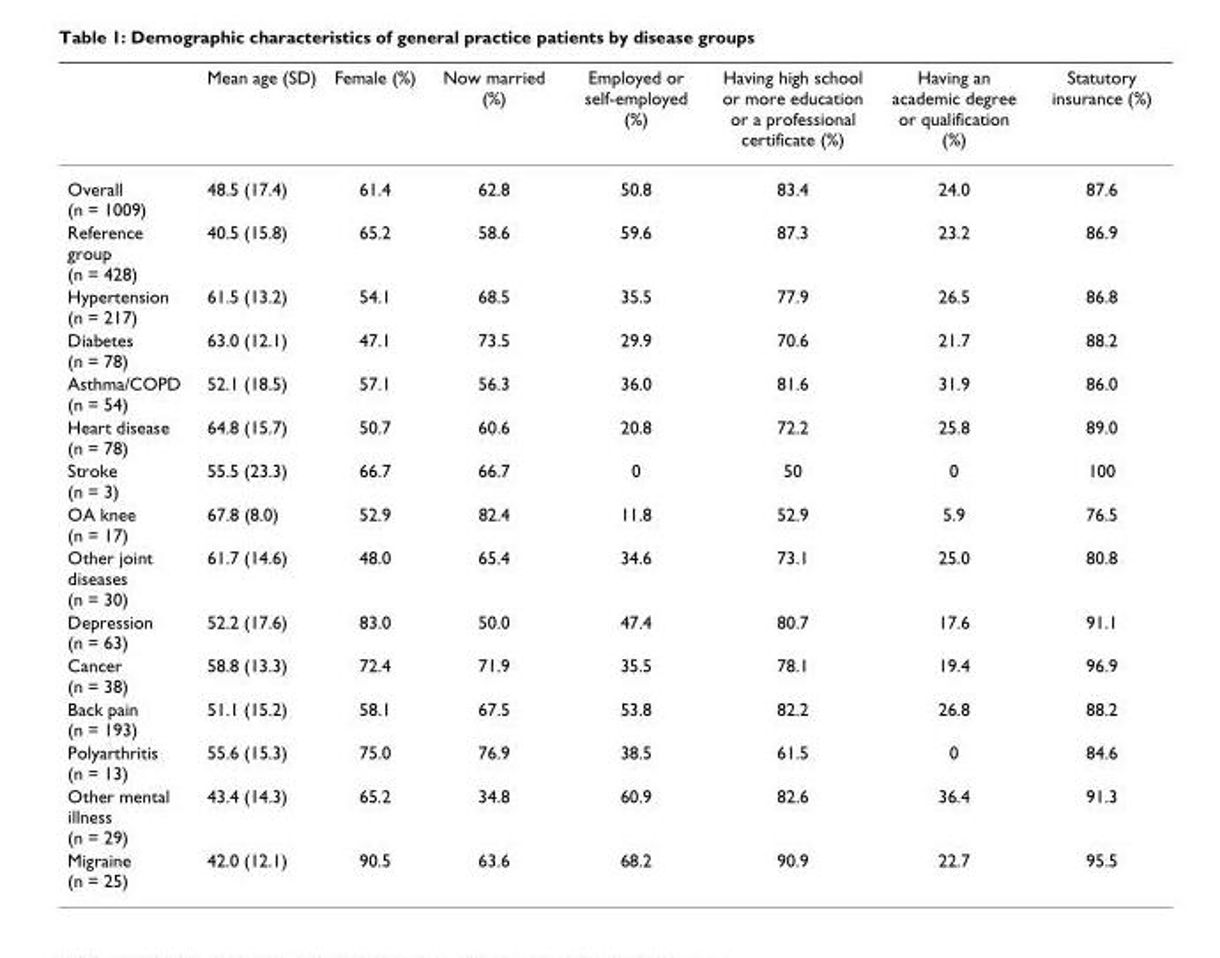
<table><thead><tr><td></td><td>Mean age (SD)</td><td>Female (%)</td><td>Now married (%)</td><td>Employed or self-employed (%)</td><td>Having high school or more education or a professional certificate (%)</td><td>Having an academic degree or qualification (%)</td><td>Statutory insurance (%)</td></tr></thead><tbody><tr><td>Overall (n = 1009)</td><td>48.5 (17.4)</td><td>61.4</td><td>62.8</td><td>50.8</td><td>83.4</td><td>24.0</td><td>87.6</td></tr><tr><td>Reference group (n = 428)</td><td>40.5 (15.8)</td><td>65.2</td><td>58.6</td><td>59.6</td><td>87.3</td><td>23.2</td><td>86.9</td></tr><tr><td>Hypertension (n = 217)</td><td>61.5 (13.2)</td><td>54.1</td><td>68.5</td><td>35.5</td><td>77.9</td><td>26.5</td><td>86.8</td></tr><tr><td>Diabetes (n = 78)</td><td>63.0 (12.1)</td><td>47.1</td><td>73.5</td><td>29.9</td><td>70.6</td><td>21.7</td><td>88.2</td></tr><tr><td>Asthma/COPD (n = 54)</td><td>52.1 (18.5)</td><td>57.1</td><td>56.3</td><td>36.0</td><td>81.6</td><td>31.9</td><td>86.0</td></tr><tr><td>Heart disease (n = 78)</td><td>64.8 (15.7)</td><td>50.7</td><td>60.6</td><td>20.8</td><td>72.2</td><td>25.8</td><td>89.0</td></tr><tr><td>Stroke (n = 3)</td><td>55.5 (23.3)</td><td>66.7</td><td>66.7</td><td>0</td><td>50</td><td>0</td><td>100</td></tr><tr><td>OA knee (n = 17)</td><td>67.8 (8.0)</td><td>52.9</td><td>82.4</td><td>11.8</td><td>52.9</td><td>5.9</td><td>76.5</td></tr><tr><td>Other joint diseases (n = 30)</td><td>61.7 (14.6)</td><td>48.0</td><td>65.4</td><td>34.6</td><td>73.1</td><td>25.0</td><td>80.8</td></tr><tr><td>Depression (n = 63)</td><td>52.2 (17.6)</td><td>83.0</td><td>50.0</td><td>47.4</td><td>80.7</td><td>17.6</td><td>91.1</td></tr><tr><td>Cancer (n = 38)</td><td>58.8 (13.3)</td><td>72.4</td><td>71.9</td><td>35.5</td><td>78.1</td><td>19.4</td><td>96.9</td></tr><tr><td>Back pain (n = 193)</td><td>51.1 (15.2)</td><td>58.1</td><td>67.5</td><td>53.8</td><td>82.2</td><td>26.8</td><td>88.2</td></tr><tr><td>Polyarthritis (n = 13)</td><td>55.6 (15.3)</td><td>75.0</td><td>76.9</td><td>38.5</td><td>61.5</td><td>0</td><td>84.6</td></tr><tr><td>Other mental illness (n = 29)</td><td>43.4 (14.3)</td><td>65.2</td><td>34.8</td><td>60.9</td><td>82.6</td><td>36.4</td><td>91.3</td></tr><tr><td>Migraine (n = 25)</td><td>42.0 (12.1)</td><td>90.5</td><td>63.6</td><td>68.2</td><td>90.9</td><td>22.7</td><td>95.5</td></tr></tbody></table>